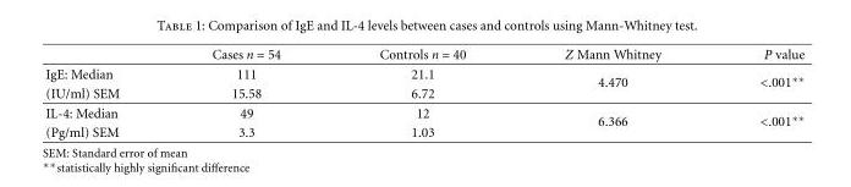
<table><thead><tr><td></td><td>Cases n = 54</td><td>Controls n = 40</td><td>Z Mann Whitney</td><td>P value</td></tr></thead><tbody><tr><td>IgE: Median</td><td>111</td><td>21.1</td><td rowspan="2">4.470</td><td rowspan="2">&lt;.001∗∗</td></tr><tr><td>(IU/ml) SEM</td><td>15.58</td><td>6.72</td></tr><tr><td>IL-4: Median</td><td>49</td><td>12</td><td rowspan="2">6.366</td><td rowspan="2">&lt;.001∗∗</td></tr><tr><td>(Pg/ml) SEM</td><td>3.3</td><td>1.03</td></tr></tbody></table>